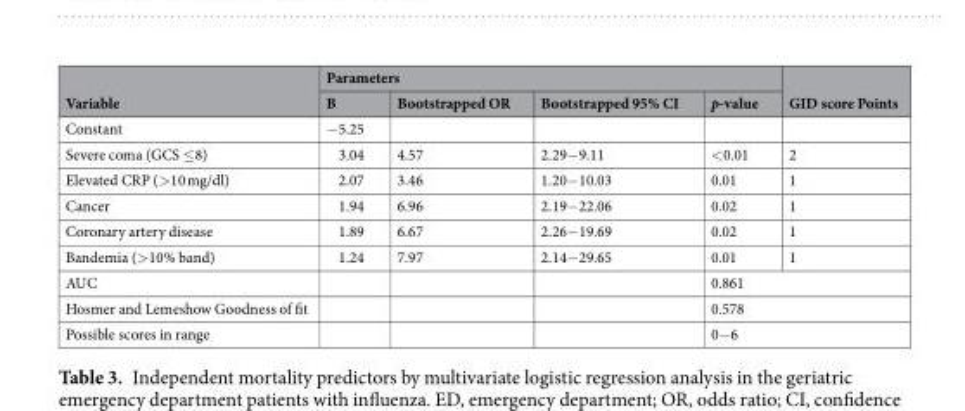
<table><thead><tr><td rowspan="2">Variable</td><td colspan="4">Parameters</td><td rowspan="2">GID score Points</td></tr><tr><td>B</td><td>Bootstrapped OR</td><td>Bootstrapped 95% CI</td><td>p-value</td></tr></thead><tbody><tr><td>Constant</td><td>−5.25</td><td></td><td></td><td></td><td></td></tr><tr><td>Severe coma (GCS ≤8)</td><td>3.04</td><td>4.57</td><td>2.29−9.11</td><td>&lt;0.01</td><td>2</td></tr><tr><td>Elevated CRP (&gt;10 mg/dl)</td><td>2.07</td><td>3.46</td><td>1.20−10.03</td><td>0.01</td><td>1</td></tr><tr><td>Cancer</td><td>1.94</td><td>6.96</td><td>2.19−22.06</td><td>0.02</td><td>1</td></tr><tr><td>Coronary artery disease</td><td>1.89</td><td>6.67</td><td>2.26−19.69</td><td>0.02</td><td>1</td></tr><tr><td>Bandemia (&gt;10% band)</td><td>1.24</td><td>7.97</td><td>2.14−29.65</td><td>0.01</td><td>1</td></tr><tr><td>AUC</td><td></td><td></td><td></td><td colspan="2">0.861</td></tr><tr><td>Hosmer and Lemeshow Goodness of fit</td><td></td><td></td><td></td><td colspan="2">0.578</td></tr><tr><td>Possible scores in range</td><td></td><td></td><td></td><td colspan="2">0−6</td></tr></tbody></table>